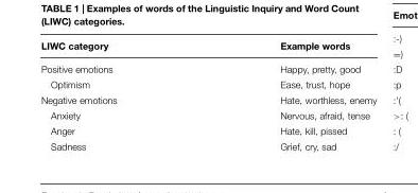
<table><thead><tr><td>LIWC category</td><td>Example words</td></tr></thead><tbody><tr><td>Positive emotions</td><td>Happy, pretty, good</td></tr><tr><td>Optimism</td><td>Ease, trust, hope</td></tr><tr><td>Negative emotions</td><td>Hate, worthless, enemy</td></tr><tr><td>Anxiety</td><td>Nervous, afraid, tense</td></tr><tr><td>Anger</td><td>Hate, kill, pissed</td></tr><tr><td>Sadness</td><td>Grief, cry, sad</td></tr></tbody></table>